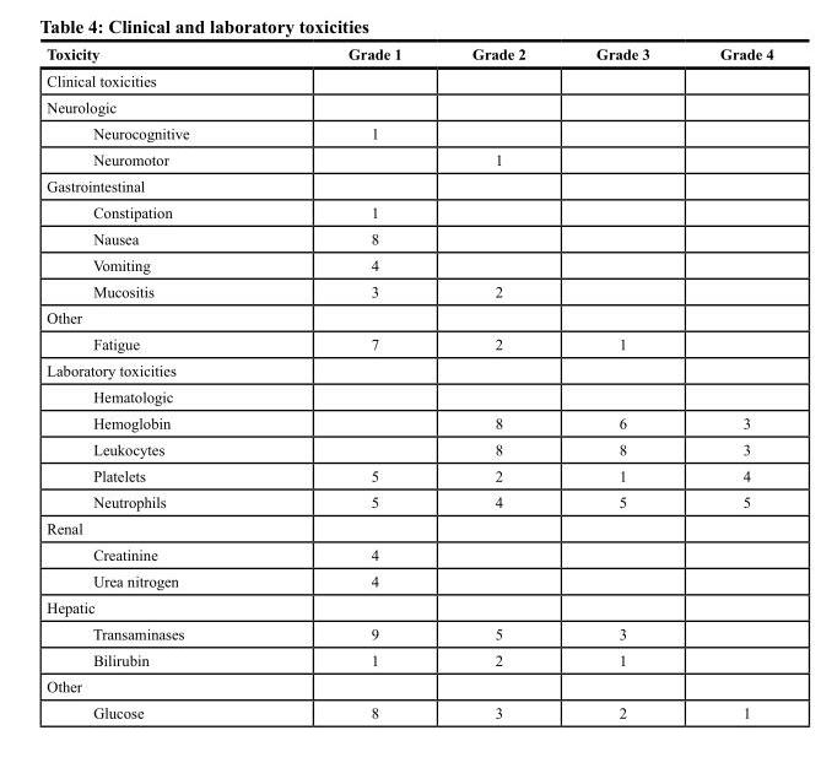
<table><thead><tr><td>Toxicity</td><td>Grade 1</td><td>Grade 2</td><td>Grade 3</td><td>Grade 4</td></tr></thead><tbody><tr><td colspan="5">Clinical toxicities</td></tr><tr><td colspan="5">Neurologic</td></tr><tr><td>Neurocognitive</td><td>1</td><td></td><td></td><td></td></tr><tr><td>Neuromotor</td><td></td><td>1</td><td></td><td></td></tr><tr><td colspan="5">Gastrointestinal</td></tr><tr><td>Constipation</td><td>1</td><td></td><td></td><td></td></tr><tr><td>Nausea</td><td>8</td><td></td><td></td><td></td></tr><tr><td>Vomiting</td><td>4</td><td></td><td></td><td></td></tr><tr><td>Mucositis</td><td>3</td><td>2</td><td></td><td></td></tr><tr><td colspan="5">Other</td></tr><tr><td>Fatigue</td><td>7</td><td>2</td><td>1</td><td></td></tr><tr><td colspan="5">Laboratory toxicities</td></tr><tr><td colspan="5">Hematologic</td></tr><tr><td>Hemoglobin</td><td></td><td>8</td><td>6</td><td>3</td></tr><tr><td>Leukocytes</td><td></td><td>8</td><td>8</td><td>3</td></tr><tr><td>Platelets</td><td>5</td><td>2</td><td>1</td><td>4</td></tr><tr><td>Neutrophils</td><td>5</td><td>4</td><td>5</td><td>5</td></tr><tr><td colspan="5">Renal</td></tr><tr><td>Creatinine</td><td>4</td><td></td><td></td><td></td></tr><tr><td>Urea nitrogen</td><td>4</td><td></td><td></td><td></td></tr><tr><td colspan="5">Hepatic</td></tr><tr><td>Transaminases</td><td>9</td><td>5</td><td>3</td><td></td></tr><tr><td>Bilirubin</td><td>1</td><td>2</td><td>1</td><td></td></tr><tr><td colspan="5">Other</td></tr><tr><td>Glucose</td><td>8</td><td>3</td><td>2</td><td>1</td></tr></tbody></table>